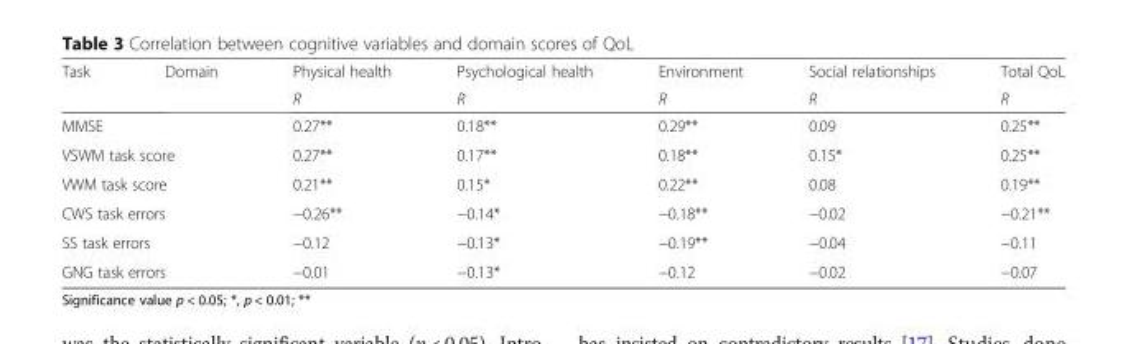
<table><thead><tr><td rowspan="2">Task</td><td rowspan="2">Domain</td><td rowspan="2">Physical health R</td><td rowspan="2">Psychological health R</td><td rowspan="2">Environment R</td><td rowspan="2">Social relationships R</td><td rowspan="2">Total QoL R</td></tr><tr></tr></thead><tbody><tr><td colspan="2">MMSE</td><td>0.27**</td><td>0.18**</td><td>0.29**</td><td>0.09</td><td>0.25**</td></tr><tr><td colspan="2">VSWM task score</td><td>0.27**</td><td>0.17**</td><td>0.18**</td><td>0.15*</td><td>0.25**</td></tr><tr><td colspan="2">VWM task score</td><td>0.21**</td><td>0.15*</td><td>0.22**</td><td>0.08</td><td>0.19**</td></tr><tr><td colspan="2">CWS task errors</td><td>−0.26**</td><td>−0.14*</td><td>−0.18**</td><td>−0.02</td><td>−0.21**</td></tr><tr><td colspan="2">SS task errors</td><td>−0.12</td><td>−0.13*</td><td>−0.19**</td><td>−0.04</td><td>−0.11</td></tr><tr><td colspan="2">GNG task errors</td><td>−0.01</td><td>−0.13*</td><td>−0.12</td><td>−0.02</td><td>−0.07</td></tr></tbody></table>